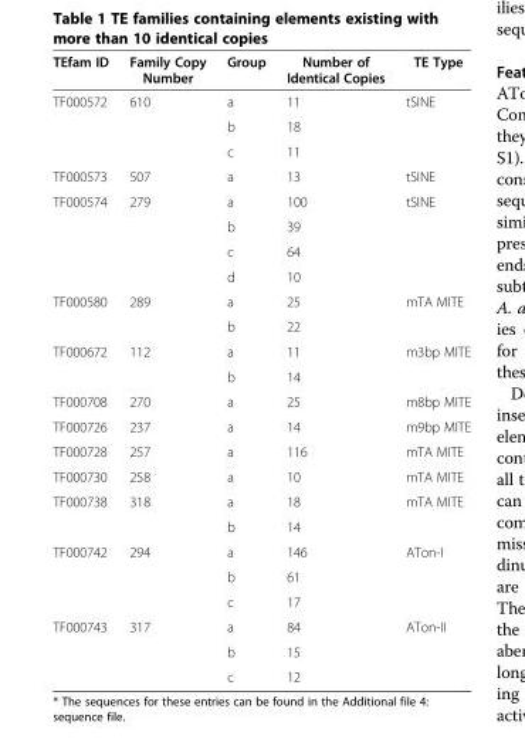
<table><thead><tr><td>TEfam ID</td><td>Family Copy Number</td><td>Group</td><td>Number of Identical Copies</td><td>TE Type</td></tr></thead><tbody><tr><td rowspan="3">TF000572</td><td>610</td><td>a</td><td>11</td><td>tSINE</td></tr><tr><td></td><td>b</td><td>18</td><td></td></tr><tr><td></td><td>c</td><td>11</td><td></td></tr><tr><td>TF000573</td><td>507</td><td>a</td><td>13</td><td>tSINE</td></tr><tr><td rowspan="4">TF000574</td><td>279</td><td>a</td><td>100</td><td>tSINE</td></tr><tr><td></td><td>b</td><td>39</td><td></td></tr><tr><td></td><td>c</td><td>64</td><td></td></tr><tr><td></td><td>d</td><td>10</td><td></td></tr><tr><td rowspan="2">TF000580</td><td>289</td><td>a</td><td>25</td><td>mTA MITE</td></tr><tr><td></td><td>b</td><td>22</td><td></td></tr><tr><td rowspan="2">TF000672</td><td>112</td><td>a</td><td>11</td><td>m3bp MITE</td></tr><tr><td></td><td>b</td><td>14</td><td></td></tr><tr><td>TF000708</td><td>270</td><td>a</td><td>25</td><td>m8bp MITE</td></tr><tr><td>TF000726</td><td>237</td><td>a</td><td>14</td><td>m9bp MITE</td></tr><tr><td>TF000728</td><td>257</td><td>a</td><td>116</td><td>mTA MITE</td></tr><tr><td>TF000730</td><td>258</td><td>a</td><td>10</td><td>mTA MITE</td></tr><tr><td rowspan="2">TF000738</td><td>318</td><td>a</td><td>18</td><td>mTA MITE</td></tr><tr><td></td><td>b</td><td>14</td><td></td></tr><tr><td rowspan="3">TF000742</td><td>294</td><td>a</td><td>146</td><td>ATon-I</td></tr><tr><td></td><td>b</td><td>61</td><td></td></tr><tr><td></td><td>c</td><td>17</td><td></td></tr><tr><td rowspan="3">TF000743</td><td>317</td><td>a</td><td>84</td><td>ATon-II</td></tr><tr><td></td><td>b</td><td>15</td><td></td></tr><tr><td></td><td>c</td><td>12</td><td></td></tr></tbody></table>